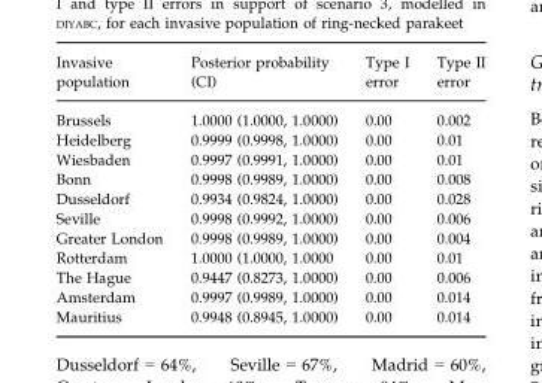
<table><thead><tr><td>Invasive population</td><td>Posterior probability (CI)</td><td>Type I error</td><td>Type II error</td></tr></thead><tbody><tr><td>Brussels</td><td>1.0000 (1.0000, 1.0000)</td><td>0.00</td><td>0.002</td></tr><tr><td>Heidelberg</td><td>0.9999 (0.9998, 1.0000)</td><td>0.00</td><td>0.01</td></tr><tr><td>Wiesbaden</td><td>0.9997 (0.9991, 1.0000)</td><td>0.00</td><td>0.01</td></tr><tr><td>Bonn</td><td>0.9998 (0.9989, 1.0000)</td><td>0.00</td><td>0.008</td></tr><tr><td>Dusseldorf</td><td>0.9934 (0.9824, 1.0000)</td><td>0.00</td><td>0.028</td></tr><tr><td>Seville</td><td>0.9998 (0.9992, 1.0000)</td><td>0.00</td><td>0.006</td></tr><tr><td>Greater London</td><td>0.9998 (0.9989, 1.0000)</td><td>0.00</td><td>0.004</td></tr><tr><td>Rotterdam</td><td>1.0000 (1.0000, 1.0000</td><td>0.00</td><td>0.01</td></tr><tr><td>The Hague</td><td>0.9447 (0.8273, 1.0000)</td><td>0.00</td><td>0.006</td></tr><tr><td>Amsterdam</td><td>0.9997 (0.9989, 1.0000)</td><td>0.00</td><td>0.014</td></tr><tr><td>Mauritius</td><td>0.9948 (0.8945, 1.0000)</td><td>0.00</td><td>0.014</td></tr></tbody></table>